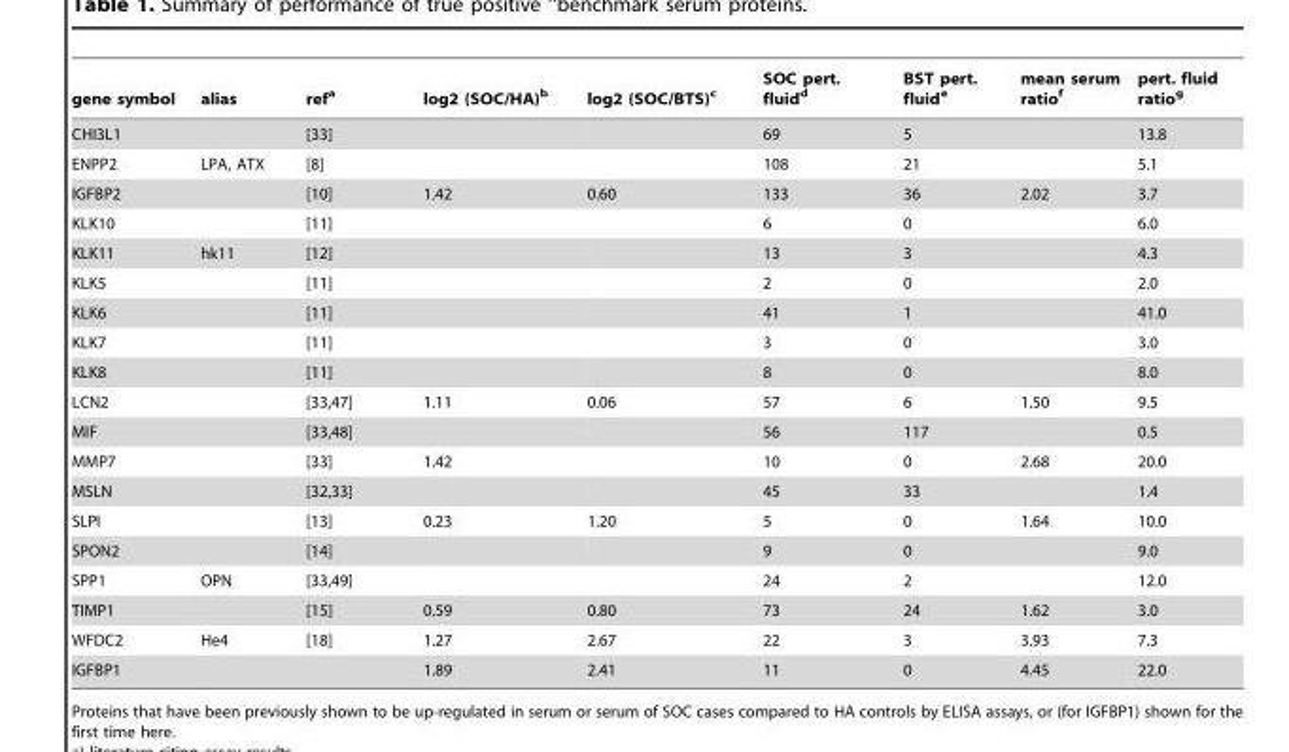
<table><thead><tr><td>gene symbol</td><td>alias</td><td>ref<sup>a</sup></td><td>log2 (SOC/HA)<sup>b</sup></td><td>log2 (SOC/BTS)<sup>c</sup></td><td>SOC pert. fluid<sup>d</sup></td><td>BST pert. fluid<sup>e</sup></td><td>mean serum ratio<sup>f</sup></td><td>pert. fluid ratio<sup>g</sup></td></tr></thead><tbody><tr><td>CHI3L1</td><td></td><td>[33]</td><td></td><td></td><td>69</td><td>5</td><td></td><td>13.8</td></tr><tr><td>ENPP2</td><td>LPA, ATX</td><td>[8]</td><td></td><td></td><td>108</td><td>21</td><td></td><td>5.1</td></tr><tr><td>IGFBP2</td><td></td><td>[10]</td><td>1.42</td><td>0.60</td><td>133</td><td>36</td><td>2.02</td><td>3.7</td></tr><tr><td>KLK10</td><td></td><td>[11]</td><td></td><td></td><td>6</td><td>0</td><td></td><td>6.0</td></tr><tr><td>KLK11</td><td>hk11</td><td>[12]</td><td></td><td></td><td>13</td><td>3</td><td></td><td>4.3</td></tr><tr><td>KLK5</td><td></td><td>[11]</td><td></td><td></td><td>2</td><td>0</td><td></td><td>2.0</td></tr><tr><td>KLK6</td><td></td><td>[11]</td><td></td><td></td><td>41</td><td>1</td><td></td><td>41.0</td></tr><tr><td>KLK7</td><td></td><td>[11]</td><td></td><td></td><td>3</td><td>0</td><td></td><td>3.0</td></tr><tr><td>KLK8</td><td></td><td>[11]</td><td></td><td></td><td>8</td><td>0</td><td></td><td>8.0</td></tr><tr><td>LCN2</td><td></td><td>[33,47]</td><td>1.11</td><td>0.06</td><td>57</td><td>6</td><td>1.50</td><td>9.5</td></tr><tr><td>MIF</td><td></td><td>[33,48]</td><td></td><td></td><td>56</td><td>117</td><td></td><td>0.5</td></tr><tr><td>MMP7</td><td></td><td>[33]</td><td>1.42</td><td></td><td>10</td><td>0</td><td>2.68</td><td>20.0</td></tr><tr><td>MSLN</td><td></td><td>[32,33]</td><td></td><td></td><td>45</td><td>33</td><td></td><td>1.4</td></tr><tr><td>SLPI</td><td></td><td>[13]</td><td>0.23</td><td>1.20</td><td>5</td><td>0</td><td>1.64</td><td>10.0</td></tr><tr><td>SPON2</td><td></td><td>[14]</td><td></td><td></td><td>9</td><td>0</td><td></td><td>9.0</td></tr><tr><td>SPP1</td><td>OPN</td><td>[33,49]</td><td></td><td></td><td>24</td><td>2</td><td></td><td>12.0</td></tr><tr><td>TIMP1</td><td></td><td>[15]</td><td>0.59</td><td>0.80</td><td>73</td><td>24</td><td>1.62</td><td>3.0</td></tr><tr><td>WFDC2</td><td>He4</td><td>[18]</td><td>1.27</td><td>2.67</td><td>22</td><td>3</td><td>3.93</td><td>7.3</td></tr><tr><td>IGFBP1</td><td></td><td></td><td>1.89</td><td>2.41</td><td>11</td><td>0</td><td>4.45</td><td>22.0</td></tr></tbody></table>